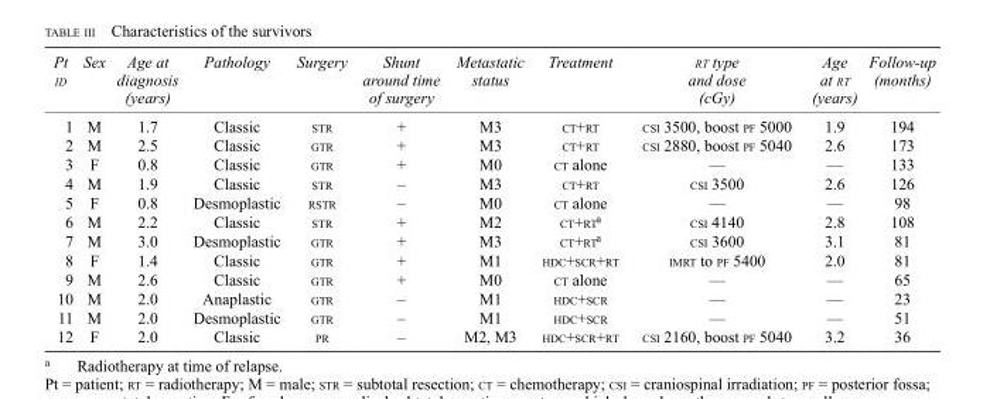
<table><thead><tr><td>Pt id</td><td>Sex</td><td>Age at diagnosis (years)</td><td>Pathology</td><td>Surgery</td><td>Shunt around time of surgery</td><td>Metastatic status</td><td>Treatment</td><td>rt type and dose (cGy)</td><td>Age at rt (years)</td><td>Follow-up (months)</td></tr></thead><tbody><tr><td>1</td><td>M</td><td>1.7</td><td>Classic</td><td>str</td><td>+</td><td>M3</td><td>ct+rt</td><td>csi 3500, boost pf 5000</td><td>1.9</td><td>194</td></tr><tr><td>2</td><td>M</td><td>2.5</td><td>Classic</td><td>gtr</td><td>+</td><td>M3</td><td>ct+rt</td><td>csi 2880, boost pf 5040</td><td>2.6</td><td>173</td></tr><tr><td>3</td><td>F</td><td>0.8</td><td>Classic</td><td>gtr</td><td>+</td><td>M0</td><td>ct alone</td><td>—</td><td>—</td><td>133</td></tr><tr><td>4</td><td>M</td><td>1.9</td><td>Classic</td><td>str</td><td>–</td><td>M3</td><td>ct+rt</td><td>csi 3500</td><td>2.6</td><td>126</td></tr><tr><td>5</td><td>F</td><td>0.8</td><td>Desmoplastic</td><td>rstr</td><td>–</td><td>M0</td><td>ct alone</td><td>—</td><td>—</td><td>98</td></tr><tr><td>6</td><td>M</td><td>2.2</td><td>Classic</td><td>str</td><td>+</td><td>M2</td><td>ct+rt<sup>a</sup></td><td>csi 4140</td><td>2.8</td><td>108</td></tr><tr><td>7</td><td>M</td><td>3.0</td><td>Desmoplastic</td><td>gtr</td><td>+</td><td>M3</td><td>ct+rt<sup>a</sup></td><td>csi 3600</td><td>3.1</td><td>81</td></tr><tr><td>8</td><td>F</td><td>1.4</td><td>Classic</td><td>gtr</td><td>+</td><td>M1</td><td>hdc+scr+rt</td><td>imrt to pf 5400</td><td>2.0</td><td>81</td></tr><tr><td>9</td><td>M</td><td>2.6</td><td>Classic</td><td>gtr</td><td>+</td><td>M0</td><td>ct alone</td><td>—</td><td>—</td><td>65</td></tr><tr><td>10</td><td>M</td><td>2.0</td><td>Anaplastic</td><td>gtr</td><td>–</td><td>M1</td><td>hdc+scr</td><td>—</td><td>—</td><td>23</td></tr><tr><td>11</td><td>M</td><td>2.0</td><td>Desmoplastic</td><td>gtr</td><td>–</td><td>M1</td><td>hdc+scr</td><td>—</td><td>—</td><td>51</td></tr><tr><td>12</td><td>F</td><td>2.0</td><td>Classic</td><td>pr</td><td>–</td><td>M2, M3</td><td>hdc+scr+rt</td><td>csi 2160, boost pf 5040</td><td>3.2</td><td>36</td></tr></tbody></table>